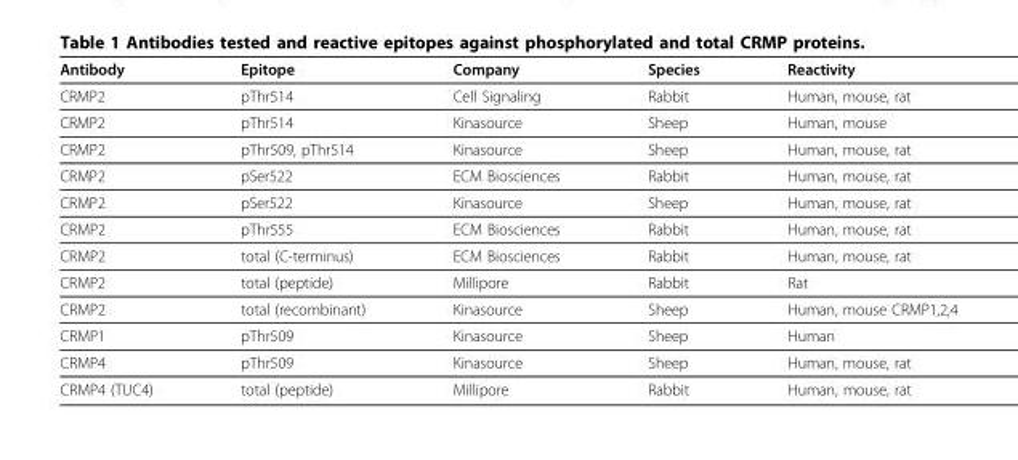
<table><thead><tr><td>Antibody</td><td>Epitope</td><td>Company</td><td>Species</td><td>Reactivity</td></tr></thead><tbody><tr><td>CRMP2</td><td>pThr514</td><td>Cell Signaling</td><td>Rabbit</td><td>Human, mouse, rat</td></tr><tr><td>CRMP2</td><td>pThr514</td><td>Kinasource</td><td>Sheep</td><td>Human, mouse</td></tr><tr><td>CRMP2</td><td>pThr509, pThr514</td><td>Kinasource</td><td>Sheep</td><td>Human, mouse, rat</td></tr><tr><td>CRMP2</td><td>pSer522</td><td>ECM Biosciences</td><td>Rabbit</td><td>Human, mouse, rat</td></tr><tr><td>CRMP2</td><td>pSer522</td><td>Kinasource</td><td>Sheep</td><td>Human, mouse, rat</td></tr><tr><td>CRMP2</td><td>pThr555</td><td>ECM Biosciences</td><td>Rabbit</td><td>Human, mouse, rat</td></tr><tr><td>CRMP2</td><td>total (C-terminus)</td><td>ECM Biosciences</td><td>Rabbit</td><td>Human, mouse, rat</td></tr><tr><td>CRMP2</td><td>total (peptide)</td><td>Millipore</td><td>Rabbit</td><td>Rat</td></tr><tr><td>CRMP2</td><td>total (recombinant)</td><td>Kinasource</td><td>Sheep</td><td>Human, mouse CRMP1,2,4</td></tr><tr><td>CRMP1</td><td>pThr509</td><td>Kinasource</td><td>Sheep</td><td>Human</td></tr><tr><td>CRMP4</td><td>pThr509</td><td>Kinasource</td><td>Sheep</td><td>Human, mouse, rat</td></tr><tr><td>CRMP4 (TUC4)</td><td>total (peptide)</td><td>Millipore</td><td>Rabbit</td><td>Human, mouse, rat</td></tr></tbody></table>